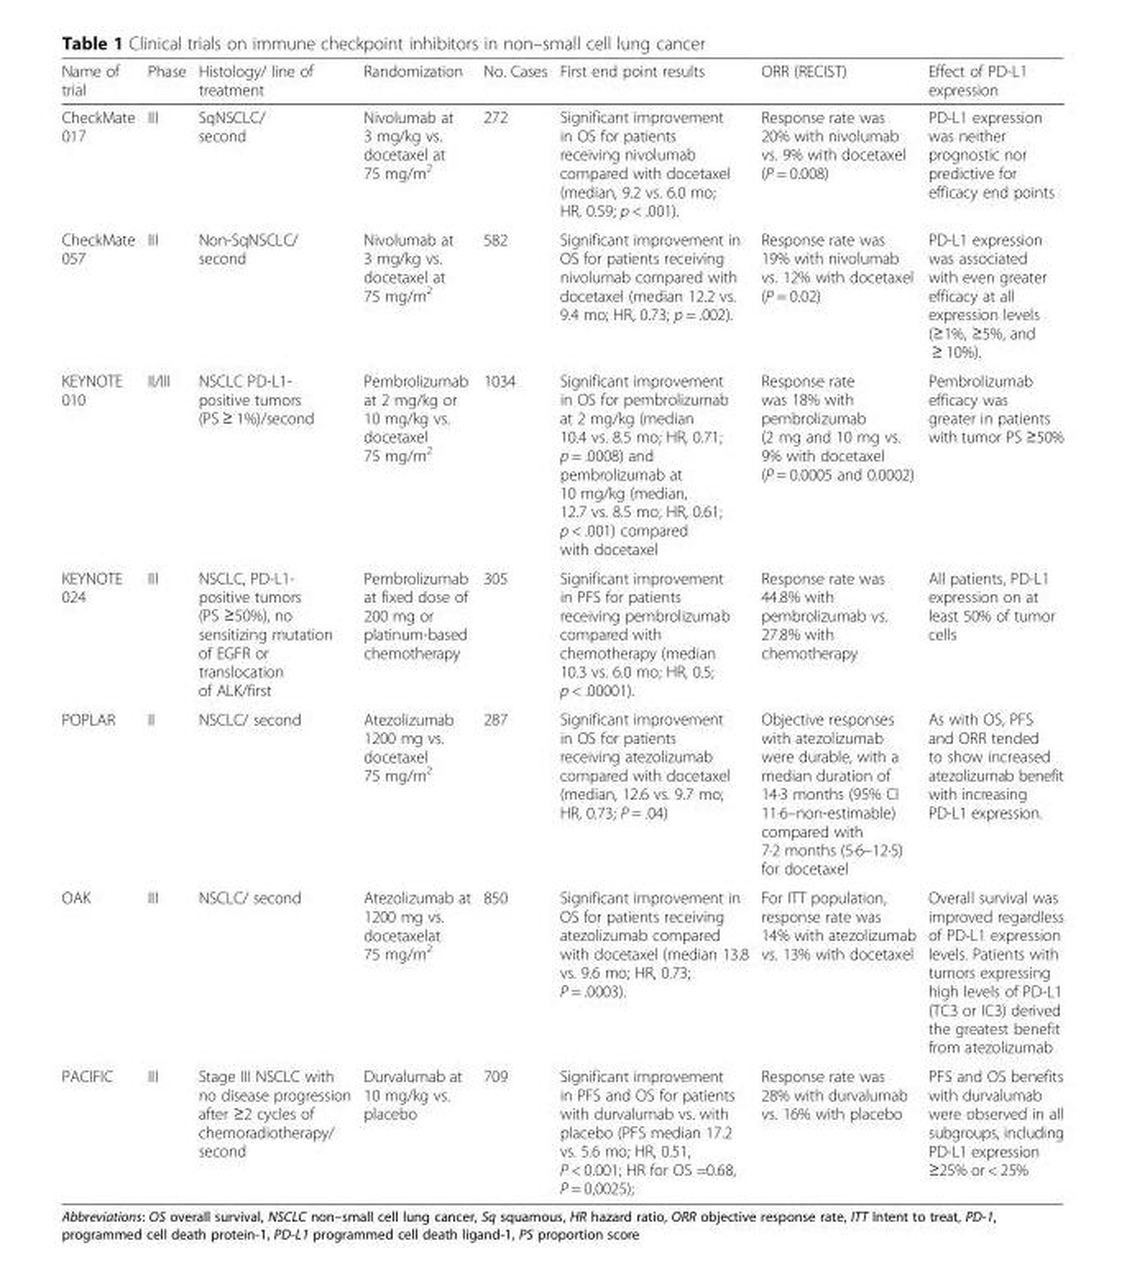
<table><thead><tr><td>Name of trial</td><td>Phase</td><td>Histology/ line of treatment</td><td>Randomization</td><td>No. Cases</td><td>First end point results</td><td>ORR (RECIST)</td><td>Effect of PD-L1 expression</td></tr></thead><tbody><tr><td>CheckMate 017</td><td>III</td><td>SqNSCLC/ second</td><td>Nivolumab at 3 mg/kg vs. docetaxel at 75 mg/m<sup>2</sup></td><td>272</td><td>Significant improvement in OS for patients receiving nivolumab compared with docetaxel (median, 9.2 vs. 6.0 mo; HR, 0.59; p &lt; .001).</td><td>Response rate was 20% with nivolumab vs. 9% with docetaxel (P = 0.008)</td><td>PD-L1 expression was neither prognostic nor predictive for efficacy end points</td></tr><tr><td>CheckMate 057</td><td>III</td><td>Non-SqNSCLC/ second</td><td>Nivolumab at 3 mg/kg vs. docetaxel at 75 mg/m<sup>2</sup></td><td>582</td><td>Significant improvement in OS for patients receiving nivolumab compared with docetaxel (median 12.2 vs. 9.4 mo; HR, 0.73; p = .002).</td><td>Response rate was 19% with nivolumab vs. 12% with docetaxel (P = 0.02)</td><td>PD-L1 expression was associated with even greater efficacy at all expression levels (≥1%, ≥5%, and ≥ 10%).</td></tr><tr><td>KEYNOTE 010</td><td>II/III</td><td>NSCLC PD-L1- positive tumors (PS ≥ 1%)/second</td><td>Pembrolizumab at 2 mg/kg or 10 mg/kg vs. docetaxel 75 mg/m<sup>2</sup></td><td>1034</td><td>Significant improvement in OS for pembrolizumab at 2 mg/kg (median 10.4 vs. 8.5 mo; HR, 0.71; p = .0008) and pembrolizumab at 10 mg/kg (median, 12.7 vs. 8.5 mo; HR, 0.61; p &lt; .001) compared with docetaxel</td><td>Response rate was 18% with pembrolizumab (2 mg and 10 mg vs. 9% with docetaxel (P = 0.0005 and 0.0002)</td><td>Pembrolizumab efficacy was greater in patients with tumor PS ≥50%</td></tr><tr><td>KEYNOTE 024</td><td>III</td><td>NSCLC, PD-L1- positive tumors (PS ≥50%), no sensitizing mutation of EGFR or translocation of ALK/first</td><td>Pembrolizumab at fixed dose of 200 mg or platinum-based chemotherapy</td><td>305</td><td>Significant improvement in PFS for patients receiving pembrolizumab compared with chemotherapy (median 10.3 vs. 6.0 mo; HR, 0.5; p &lt; .00001).</td><td>Response rate was 44.8% with pembrolizumab vs. 27.8% with chemotherapy</td><td>All patients, PD-L1 expression on at least 50% of tumor cells</td></tr><tr><td>POPLAR</td><td>II</td><td>NSCLC/ second</td><td>Atezolizumab 1200 mg vs. docetaxel 75 mg/m<sup>2</sup></td><td>287</td><td>Significant improvement in OS for patients receiving atezolizumab compared with docetaxel (median, 12.6 vs. 9.7 mo; HR, 0.73; P = .04)</td><td>Objective responses with atezolizumab were durable, with a median duration of 14·3 months (95% CI 11·6–non-estimable) compared with 7·2 months (5·6–12·5) for docetaxel</td><td>As with OS, PFS and ORR tended to show increased atezolizumab benefit with increasing PD-L1 expression.</td></tr><tr><td>OAK</td><td>III</td><td>NSCLC/ second</td><td>Atezolizumab at 1200 mg vs. docetaxelat 75 mg/m<sup>2</sup></td><td>850</td><td>Significant improvement in OS for patients receiving atezolizumab compared with docetaxel (median 13.8 vs. 9.6 mo; HR, 0.73; P = .0003).</td><td>For ITT population, response rate was 14% with atezolizumab vs. 13% with docetaxel</td><td>Overall survival was improved regardless of PD-L1 expression levels. Patients with tumors expressing high levels of PD-L1 (TC3 or IC3) derived the greatest benefit from atezolizumab</td></tr><tr><td>PACIFIC</td><td>III</td><td>Stage III NSCLC with no disease progression after ≥2 cycles of chemoradiotherapy/ second</td><td>Durvalumab at 10 mg/kg vs. placebo</td><td>709</td><td>Significant improvement in PFS and OS for patients with durvalumab vs. with placebo (PFS median 17.2 vs. 5.6 mo; HR, 0.51, P &lt; 0.001; HR for OS =0.68, P = 0,0025);</td><td>Response rate was 28% with durvalumab vs. 16% with placebo</td><td>PFS and OS benefits with durvalumab were observed in all subgroups, including PD-L1 expression ≥25% or &lt; 25%</td></tr></tbody></table>